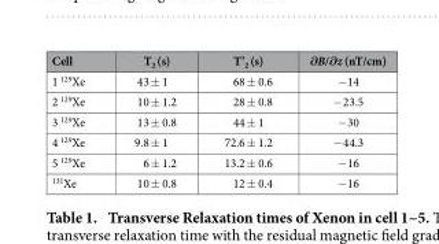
<table><thead><tr><td>Cell</td><td>T<sub>2</sub> (s)</td><td>T’<sub>2</sub> (s)</td><td>∂B/∂z (nT/cm)</td></tr></thead><tbody><tr><td>1 <sup>129</sup>Xe</td><td>43 ± 1</td><td>68 ± 0.6</td><td>− 14</td></tr><tr><td>2 <sup>129</sup>Xe</td><td>10 ± 1.2</td><td>28 ± 0.8</td><td>− 23.5</td></tr><tr><td>3 <sup>129</sup>Xe</td><td>13 ± 0.8</td><td>44 ± 1</td><td>− 30</td></tr><tr><td>4 <sup>129</sup>Xe</td><td>9.8 ± 1</td><td>72.6 ± 1.2</td><td>− 44.3</td></tr><tr><td>5 <sup>129</sup>Xe</td><td>6 ± 1.2</td><td>13.2 ± 0.6</td><td>− 16</td></tr><tr><td><sup>131</sup>Xe</td><td>10 ± 0.8</td><td>12 ± 0.4</td><td>− 16</td></tr></tbody></table>